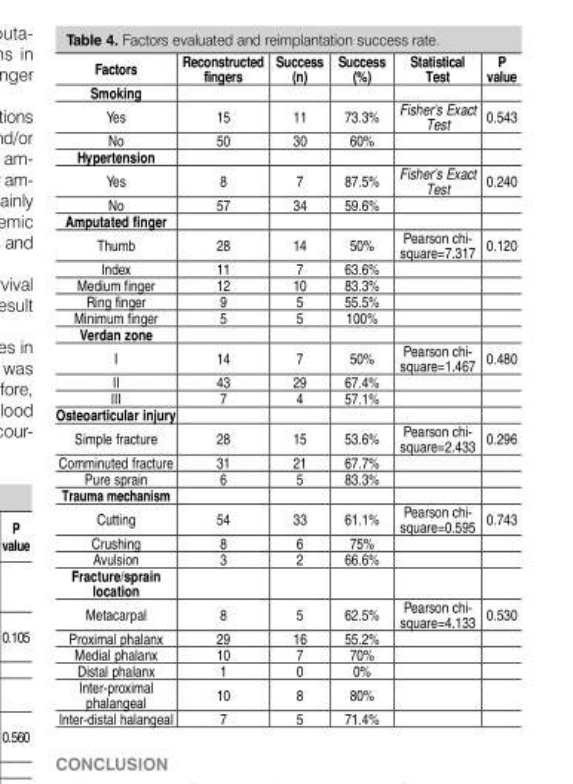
<table><thead><tr><td>Factors</td><td>Reconstructed fingers</td><td>Success (n)</td><td>Success (%)</td><td>Statistical Test</td><td>P value</td></tr></thead><tbody><tr><td colspan="6">Smoking</td></tr><tr><td>Yes</td><td>15</td><td>11</td><td>73.3%</td><td>Fisher&#x27;s Exact Test</td><td>0.543</td></tr><tr><td>No</td><td>50</td><td>30</td><td>60%</td><td></td><td></td></tr><tr><td colspan="6">Hypertension</td></tr><tr><td>Yes</td><td>8</td><td>7</td><td>87.5%</td><td>Fisher&#x27;s Exact Test</td><td>0.240</td></tr><tr><td>No</td><td>57</td><td>34</td><td>59.6%</td><td></td><td></td></tr><tr><td colspan="6">Amputated finger</td></tr><tr><td>Thumb</td><td>28</td><td>14</td><td>50%</td><td>Pearson chi- square=7.317</td><td>0.120</td></tr><tr><td>Index</td><td>11</td><td>7</td><td>63.6%</td><td></td><td></td></tr><tr><td>Medium finger</td><td>12</td><td>10</td><td>83.3%</td><td></td><td></td></tr><tr><td>Ring finger</td><td>9</td><td>5</td><td>55.5%</td><td></td><td></td></tr><tr><td>Minimum finger</td><td>5</td><td>5</td><td>100%</td><td></td><td></td></tr><tr><td colspan="6">Verdan zone</td></tr><tr><td>I</td><td>14</td><td>7</td><td>50%</td><td>Pearson chi- square=1.467</td><td>0.480</td></tr><tr><td>II</td><td>43</td><td>29</td><td>67.4%</td><td></td><td></td></tr><tr><td>III</td><td>7</td><td>4</td><td>57.1%</td><td></td><td></td></tr><tr><td colspan="6">Osteoarticular injury</td></tr><tr><td>Simple fracture</td><td>28</td><td>15</td><td>53.6%</td><td>Pearson chi- square=2.433</td><td>0.296</td></tr><tr><td>Comminuted fracture</td><td>31</td><td>21</td><td>67.7%</td><td></td><td></td></tr><tr><td>Pure sprain</td><td>6</td><td>5</td><td>83.3%</td><td></td><td></td></tr><tr><td colspan="6">Trauma mechanism</td></tr><tr><td>Cutting</td><td>54</td><td>33</td><td>61.1%</td><td>Pearson chi- square=0.595</td><td>0.743</td></tr><tr><td>Crushing</td><td>8</td><td>6</td><td>75%</td><td></td><td></td></tr><tr><td>Avulsion</td><td>3</td><td>2</td><td>66.6%</td><td></td><td></td></tr><tr><td colspan="6">Fracture/sprain location</td></tr><tr><td>Metacarpal</td><td>8</td><td>5</td><td>62.5%</td><td>Pearson chi- square=4.133</td><td>0.530</td></tr><tr><td>Proximal phalanx</td><td>29</td><td>16</td><td>55.2%</td><td></td><td></td></tr><tr><td>Medial phalanx</td><td>10</td><td>7</td><td>70%</td><td></td><td></td></tr><tr><td>Distal phalanx</td><td>1</td><td>0</td><td>0%</td><td></td><td></td></tr><tr><td>Inter-proximal phalangeal</td><td>10</td><td>8</td><td>80%</td><td></td><td></td></tr><tr><td>Inter-distal halangeal</td><td>7</td><td>5</td><td>71.4%</td><td></td><td></td></tr></tbody></table>